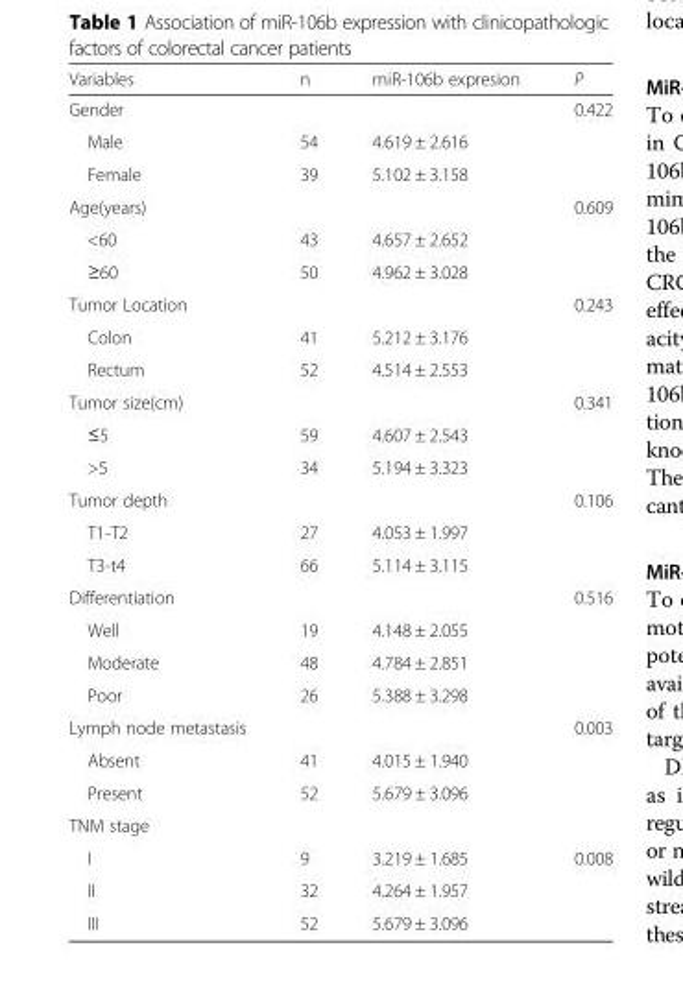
<table><thead><tr><td>Variables</td><td>n</td><td>miR-106b expresion</td><td>P</td></tr></thead><tbody><tr><td>Gender</td><td></td><td></td><td>0.422</td></tr><tr><td>Male</td><td>54</td><td>4.619 ± 2.616</td><td rowspan="2"></td></tr><tr><td>Female</td><td>39</td><td>5.102 ± 3.158</td></tr><tr><td>Age(years)</td><td></td><td></td><td>0.609</td></tr><tr><td>&lt;60</td><td>43</td><td>4.657 ± 2.652</td><td rowspan="2"></td></tr><tr><td>≥60</td><td>50</td><td>4.962 ± 3.028</td></tr><tr><td>Tumor Location</td><td></td><td></td><td>0.243</td></tr><tr><td>Colon</td><td>41</td><td>5.212 ± 3.176</td><td rowspan="2"></td></tr><tr><td>Rectum</td><td>52</td><td>4.514 ± 2.553</td></tr><tr><td>Tumor size(cm)</td><td></td><td></td><td>0.341</td></tr><tr><td>≤5</td><td>59</td><td>4.607 ± 2.543</td><td rowspan="2"></td></tr><tr><td>&gt;5</td><td>34</td><td>5.194 ± 3.323</td></tr><tr><td>Tumor depth</td><td></td><td></td><td>0.106</td></tr><tr><td>T1-T2</td><td>27</td><td>4.053 ± 1.997</td><td rowspan="2"></td></tr><tr><td>T3-t4</td><td>66</td><td>5.114 ± 3.115</td></tr><tr><td>Differentiation</td><td></td><td></td><td>0.516</td></tr><tr><td>Well</td><td>19</td><td>4.148 ± 2.055</td><td rowspan="3"></td></tr><tr><td>Moderate</td><td>48</td><td>4.784 ± 2.851</td></tr><tr><td>Poor</td><td>26</td><td>5.388 ± 3.298</td></tr><tr><td>Lymph node metastasis</td><td></td><td></td><td>0.003</td></tr><tr><td>Absent</td><td>41</td><td>4.015 ± 1.940</td><td rowspan="2"></td></tr><tr><td>Present</td><td>52</td><td>5.679 ± 3.096</td></tr><tr><td colspan="4">TNM stage</td></tr><tr><td>I</td><td>9</td><td>3.219 ± 1.685</td><td rowspan="3">0.008</td></tr><tr><td>II</td><td>32</td><td>4.264 ± 1.957</td></tr><tr><td>III</td><td>52</td><td>5.679 ± 3.096</td></tr></tbody></table>